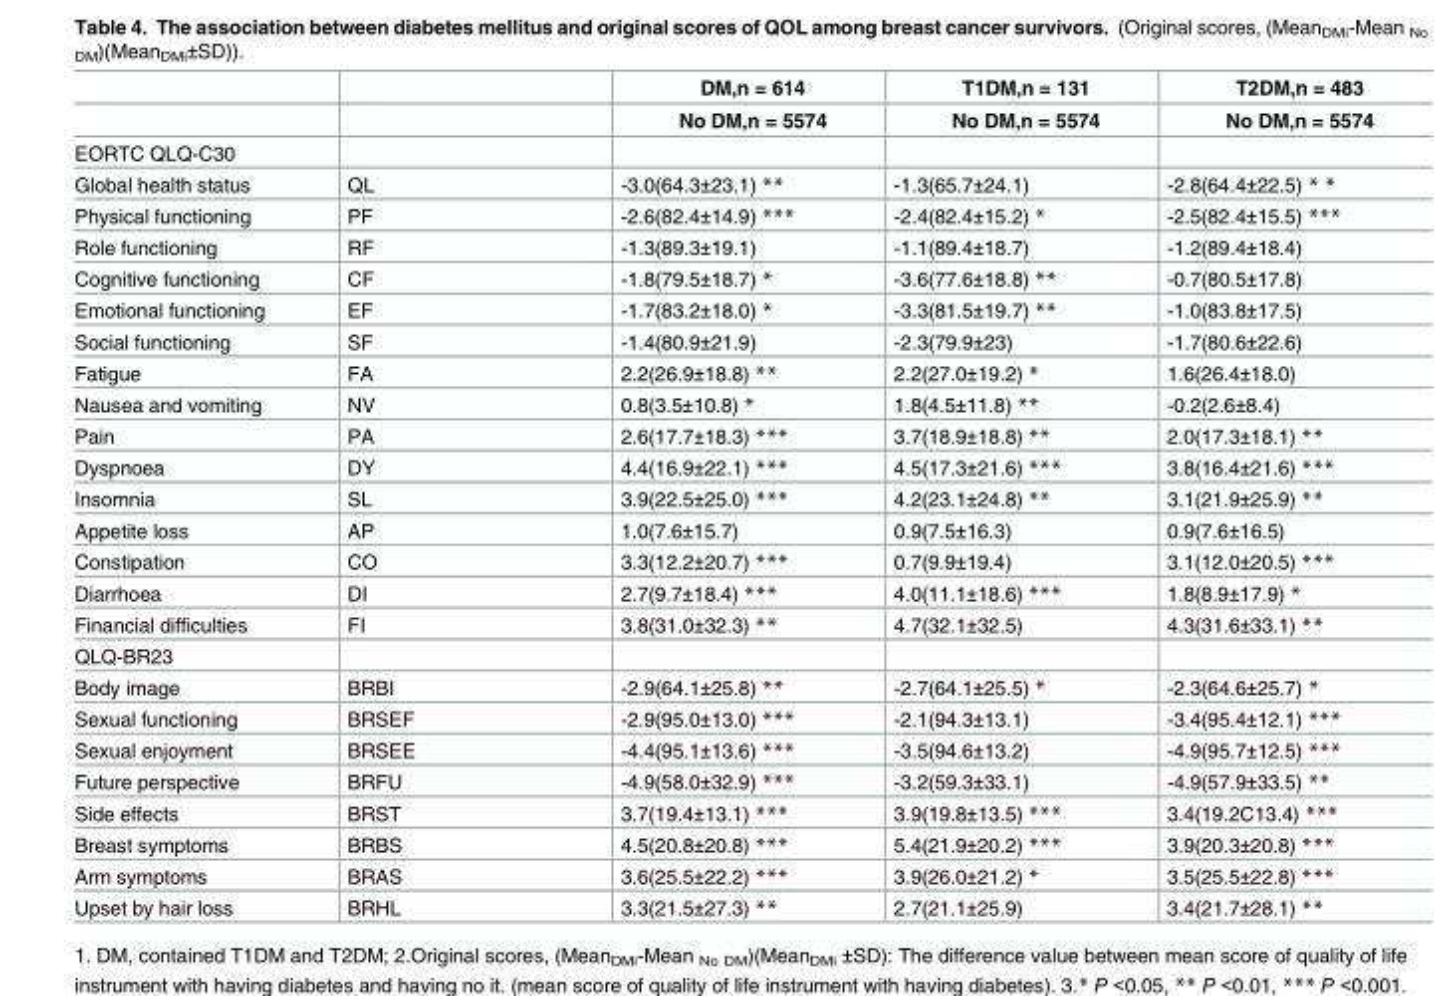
<table><thead><tr><td rowspan="2"></td><td rowspan="2"></td><td rowspan="2">DM,n = 614 No DM,n = 5574</td><td rowspan="2">T1DM,n = 131 No DM,n = 5574</td><td rowspan="2">T2DM,n = 483 No DM,n = 5574</td></tr><tr></tr></thead><tbody><tr><td colspan="5">EORTC QLQ-C30</td></tr><tr><td>Global health status</td><td>QL</td><td>-3.0(64.3±23.1) **</td><td>-1.3(65.7±24.1)</td><td>-2.8(64.4±22.5) * *</td></tr><tr><td>Physical functioning</td><td>PF</td><td>-2.6(82.4±14.9) ***</td><td>-2.4(82.4±15.2) *</td><td>-2.5(82.4±15.5) ***</td></tr><tr><td>Role functioning</td><td>RF</td><td>-1.3(89.3±19.1)</td><td>-1.1(89.4±18.7)</td><td>-1.2(89.4±18.4)</td></tr><tr><td>Cognitive functioning</td><td>CF</td><td>-1.8(79.5±18.7) *</td><td>-3.6(77.6±18.8) **</td><td>-0.7(80.5±17.8)</td></tr><tr><td>Emotional functioning</td><td>EF</td><td>-1.7(83.2±18.0) *</td><td>-3.3(81.5±19.7) **</td><td>-1.0(83.8±17.5)</td></tr><tr><td>Social functioning</td><td>SF</td><td>-1.4(80.9±21.9)</td><td>-2.3(79.9±23)</td><td>-1.7(80.6±22.6)</td></tr><tr><td>Fatigue</td><td>FA</td><td>2.2(26.9±18.8) **</td><td>2.2(27.0±19.2) *</td><td>1.6(26.4±18.0)</td></tr><tr><td>Nausea and vomiting</td><td>NV</td><td>0.8(3.5±10.8) *</td><td>1.8(4.5±11.8) **</td><td>-0.2(2.6±8.4)</td></tr><tr><td>Pain</td><td>PA</td><td>2.6(17.7±18.3) ***</td><td>3.7(18.9±18.8) **</td><td>2.0(17.3±18.1) **</td></tr><tr><td>Dyspnoea</td><td>DY</td><td>4.4(16.9±22.1) ***</td><td>4.5(17.3±21.6) ***</td><td>3.8(16.4±21.6) ***</td></tr><tr><td>Insomnia</td><td>SL</td><td>3.9(22.5±25.0) ***</td><td>4.2(23.1±24.8) **</td><td>3.1(21.9±25.9) **</td></tr><tr><td>Appetite loss</td><td>AP</td><td>1.0(7.6±15.7)</td><td>0.9(7.5±16.3)</td><td>0.9(7.6±16.5)</td></tr><tr><td>Constipation</td><td>CO</td><td>3.3(12.2±20.7) ***</td><td>0.7(9.9±19.4)</td><td>3.1(12.0±20.5) ***</td></tr><tr><td>Diarrhoea</td><td>DI</td><td>2.7(9.7±18.4) ***</td><td>4.0(11.1±18.6) ***</td><td>1.8(8.9±17.9) *</td></tr><tr><td>Financial difficulties</td><td>FI</td><td>3.8(31.0±32.3) **</td><td>4.7(32.1±32.5)</td><td>4.3(31.6±33.1) **</td></tr><tr><td colspan="5">QLQ-BR23</td></tr><tr><td>Body image</td><td>BRBI</td><td>-2.9(64.1±25.8) **</td><td>-2.7(64.1±25.5) *</td><td>-2.3(64.6±25.7) *</td></tr><tr><td>Sexual functioning</td><td>BRSEF</td><td>-2.9(95.0±13.0) ***</td><td>-2.1(94.3±13.1)</td><td>-3.4(95.4±12.1) ***</td></tr><tr><td>Sexual enjoyment</td><td>BRSEE</td><td>-4.4(95.1±13.6) ***</td><td>-3.5(94.6±13.2)</td><td>-4.9(95.7±12.5) ***</td></tr><tr><td>Future perspective</td><td>BRFU</td><td>-4.9(58.0±32.9) ***</td><td>-3.2(59.3±33.1)</td><td>-4.9(57.9±33.5) **</td></tr><tr><td>Side effects</td><td>BRST</td><td>3.7(19.4±13.1) ***</td><td>3.9(19.8±13.5) ***</td><td>3.4(19.2C13.4) ***</td></tr><tr><td>Breast symptoms</td><td>BRBS</td><td>4.5(20.8±20.8) ***</td><td>5.4(21.9±20.2) ***</td><td>3.9(20.3±20.8) ***</td></tr><tr><td>Arm symptoms</td><td>BRAS</td><td>3.6(25.5±22.2) ***</td><td>3.9(26.0±21.2) *</td><td>3.5(25.5±22.8) ***</td></tr><tr><td>Upset by hair loss</td><td>BRHL</td><td>3.3(21.5±27.3) **</td><td>2.7(21.1±25.9)</td><td>3.4(21.7±28.1) **</td></tr></tbody></table>